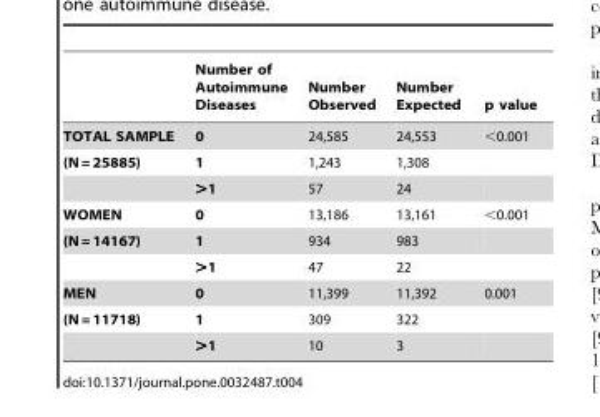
<table><thead><tr><td></td><td>Number of Autoimmune Diseases</td><td>Number Observed</td><td>Number Expected</td><td>p value</td></tr></thead><tbody><tr><td>TOTAL SAMPLE</td><td>0</td><td>24,585</td><td>24,553</td><td>&lt;0.001</td></tr><tr><td rowspan="2">(N = 25885)</td><td>1</td><td>1,243</td><td>1,308</td><td></td></tr><tr><td>&gt;1</td><td>57</td><td>24</td><td></td></tr><tr><td>WOMEN</td><td>0</td><td>13,186</td><td>13,161</td><td>&lt;0.001</td></tr><tr><td rowspan="2">(N = 14167)</td><td>1</td><td>934</td><td>983</td><td></td></tr><tr><td>&gt;1</td><td>47</td><td>22</td><td></td></tr><tr><td>MEN</td><td>0</td><td>11,399</td><td>11,392</td><td>0.001</td></tr><tr><td rowspan="2">(N = 11718)</td><td>1</td><td>309</td><td>322</td><td></td></tr><tr><td>&gt;1</td><td>10</td><td>3</td><td></td></tr></tbody></table>